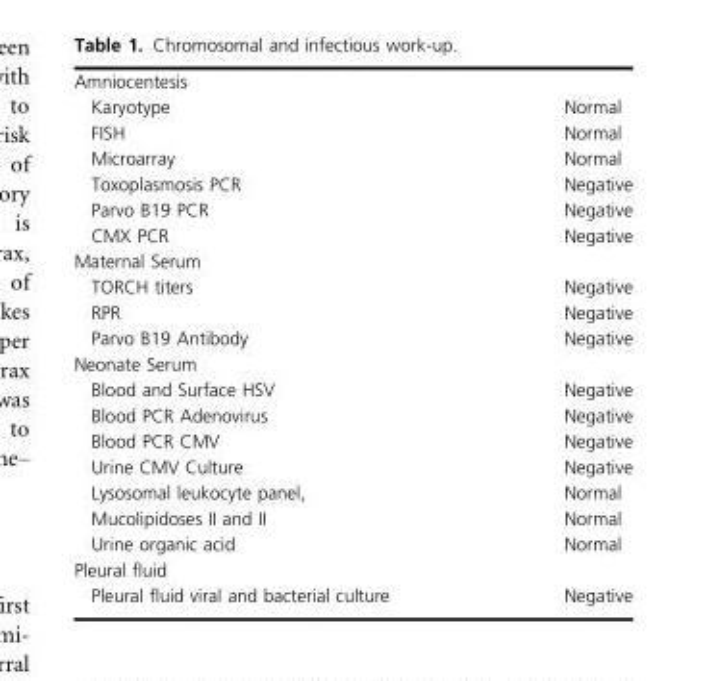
<table><tbody><tr><td colspan="2">Amniocentesis</td></tr><tr><td>Karyotype</td><td>Normal</td></tr><tr><td>FISH</td><td>Normal</td></tr><tr><td>Microarray</td><td>Normal</td></tr><tr><td>Toxoplasmosis PCR</td><td>Negative</td></tr><tr><td>Parvo B19 PCR</td><td>Negative</td></tr><tr><td>CMX PCR</td><td>Negative</td></tr><tr><td colspan="2">Maternal Serum</td></tr><tr><td>TORCH titers</td><td>Negative</td></tr><tr><td>RPR</td><td>Negative</td></tr><tr><td>Parvo B19 Antibody</td><td>Negative</td></tr><tr><td colspan="2">Neonate Serum</td></tr><tr><td>Blood and Surface HSV</td><td>Negative</td></tr><tr><td>Blood PCR Adenovirus</td><td>Negative</td></tr><tr><td>Blood PCR CMV</td><td>Negative</td></tr><tr><td>Urine CMV Culture</td><td>Negative</td></tr><tr><td>Lysosomal leukocyte panel,</td><td>Normal</td></tr><tr><td>Mucolipidoses II and II</td><td>Normal</td></tr><tr><td>Urine organic acid</td><td>Normal</td></tr><tr><td colspan="2">Pleural fluid</td></tr><tr><td>Pleural fluid viral and bacterial culture</td><td>Negative</td></tr></tbody></table>